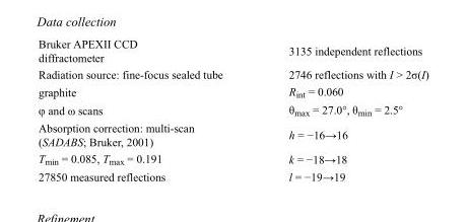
<table><tbody><tr><td>Bruker APEXII CCD diffractometer</td><td>3135 independent reflections</td></tr><tr><td>Radiation source: fine-focus sealed tube</td><td>2746 reflections with I &gt; 2σ(I)</td></tr><tr><td>graphite</td><td>R<sub>int</sub> = 0.060</td></tr><tr><td>φ and ω scans</td><td>θ<sub>max</sub> = 27.0°, θ<sub>min</sub> = 2.5°</td></tr><tr><td>Absorption correction: multi-scan (SADABS; Bruker, 2001)</td><td>h = −16→16</td></tr><tr><td>T<sub>min</sub> = 0.085, T<sub>max</sub> = 0.191</td><td>k = −18→18</td></tr><tr><td>27850 measured reflections</td><td>l = −19→19</td></tr></tbody></table>